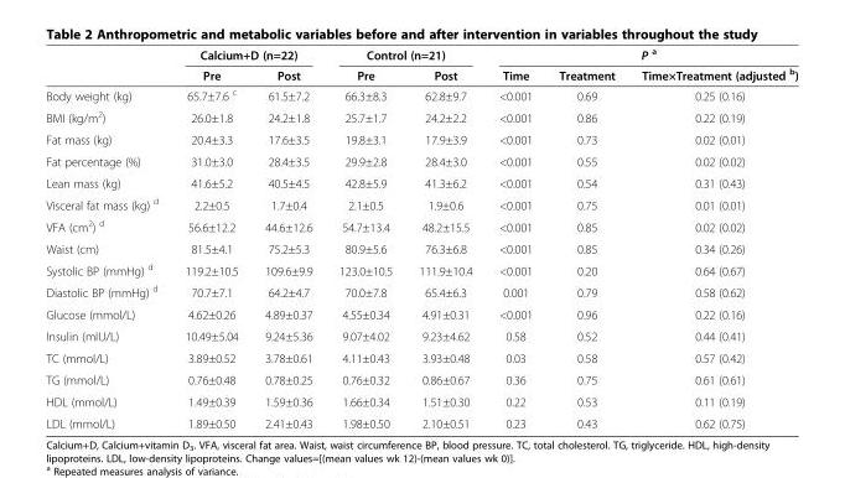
<table><thead><tr><td rowspan="2"></td><td colspan="2">Calcium+D (n=22)</td><td colspan="2">Control (n=21)</td><td colspan="3">P <sup>a</sup></td></tr><tr><td>Pre</td><td>Post</td><td>Pre</td><td>Post</td><td>Time</td><td>Treatment</td><td>Time×Treatment (adjusted <sup>b</sup>)</td></tr></thead><tbody><tr><td>Body weight (kg)</td><td>65.7±7.6 <sup>c</sup></td><td>61.5±7.2</td><td>66.3±8.3</td><td>62.8±9.7</td><td>&lt;0.001</td><td>0.69</td><td>0.25 (0.16)</td></tr><tr><td>BMI (kg/m<sup>2</sup>)</td><td>26.0±1.8</td><td>24.2±1.8</td><td>25.7±1.7</td><td>24.2±2.2</td><td>&lt;0.001</td><td>0.86</td><td>0.22 (0.19)</td></tr><tr><td>Fat mass (kg)</td><td>20.4±3.3</td><td>17.6±3.5</td><td>19.8±3.1</td><td>17.9±3.9</td><td>&lt;0.001</td><td>0.73</td><td>0.02 (0.01)</td></tr><tr><td>Fat percentage (%)</td><td>31.0±3.0</td><td>28.4±3.5</td><td>29.9±2.8</td><td>28.4±3.0</td><td>&lt;0.001</td><td>0.55</td><td>0.02 (0.02)</td></tr><tr><td>Lean mass (kg)</td><td>41.6±5.2</td><td>40.5±4.5</td><td>42.8±5.9</td><td>41.3±6.2</td><td>&lt;0.001</td><td>0.54</td><td>0.31 (0.43)</td></tr><tr><td>Visceral fat mass (kg) <sup>d</sup></td><td>2.2±0.5</td><td>1.7±0.4</td><td>2.1±0.5</td><td>1.9±0.6</td><td>&lt;0.001</td><td>0.75</td><td>0.01 (0.01)</td></tr><tr><td>VFA (cm<sup>2</sup>) <sup>d</sup></td><td>56.6±12.2</td><td>44.6±12.6</td><td>54.7±13.4</td><td>48.2±15.5</td><td>&lt;0.001</td><td>0.85</td><td>0.02 (0.02)</td></tr><tr><td>Waist (cm)</td><td>81.5±4.1</td><td>75.2±5.3</td><td>80.9±5.6</td><td>76.3±6.8</td><td>&lt;0.001</td><td>0.85</td><td>0.34 (0.26)</td></tr><tr><td>Systolic BP (mmHg) <sup>d</sup></td><td>119.2±10.5</td><td>109.6±9.9</td><td>123.0±10.5</td><td>111.9±10.4</td><td>&lt;0.001</td><td>0.20</td><td>0.64 (0.67)</td></tr><tr><td>Diastolic BP (mmHg) <sup>d</sup></td><td>70.7±7.1</td><td>64.2±4.7</td><td>70.0±7.8</td><td>65.4±6.3</td><td>0.001</td><td>0.79</td><td>0.58 (0.62)</td></tr><tr><td>Glucose (mmol/L)</td><td>4.62±0.26</td><td>4.89±0.37</td><td>4.55±0.34</td><td>4.91±0.31</td><td>&lt;0.001</td><td>0.96</td><td>0.22 (0.16)</td></tr><tr><td>Insulin (mIU/L)</td><td>10.49±5.04</td><td>9.24±5.36</td><td>9.07±4.02</td><td>9.23±4.62</td><td>0.58</td><td>0.52</td><td>0.44 (0.41)</td></tr><tr><td>TC (mmol/L)</td><td>3.89±0.52</td><td>3.78±0.61</td><td>4.11±0.43</td><td>3.93±0.48</td><td>0.03</td><td>0.58</td><td>0.57 (0.42)</td></tr><tr><td>TG (mmol/L)</td><td>0.76±0.48</td><td>0.78±0.25</td><td>0.76±0.32</td><td>0.86±0.67</td><td>0.36</td><td>0.75</td><td>0.61 (0.61)</td></tr><tr><td>HDL (mmol/L)</td><td>1.49±0.39</td><td>1.59±0.36</td><td>1.66±0.34</td><td>1.51±0.30</td><td>0.22</td><td>0.53</td><td>0.11 (0.19)</td></tr><tr><td>LDL (mmol/L)</td><td>1.89±0.50</td><td>2.41±0.43</td><td>1.98±0.50</td><td>2.10±0.51</td><td>0.23</td><td>0.43</td><td>0.62 (0.75)</td></tr></tbody></table>